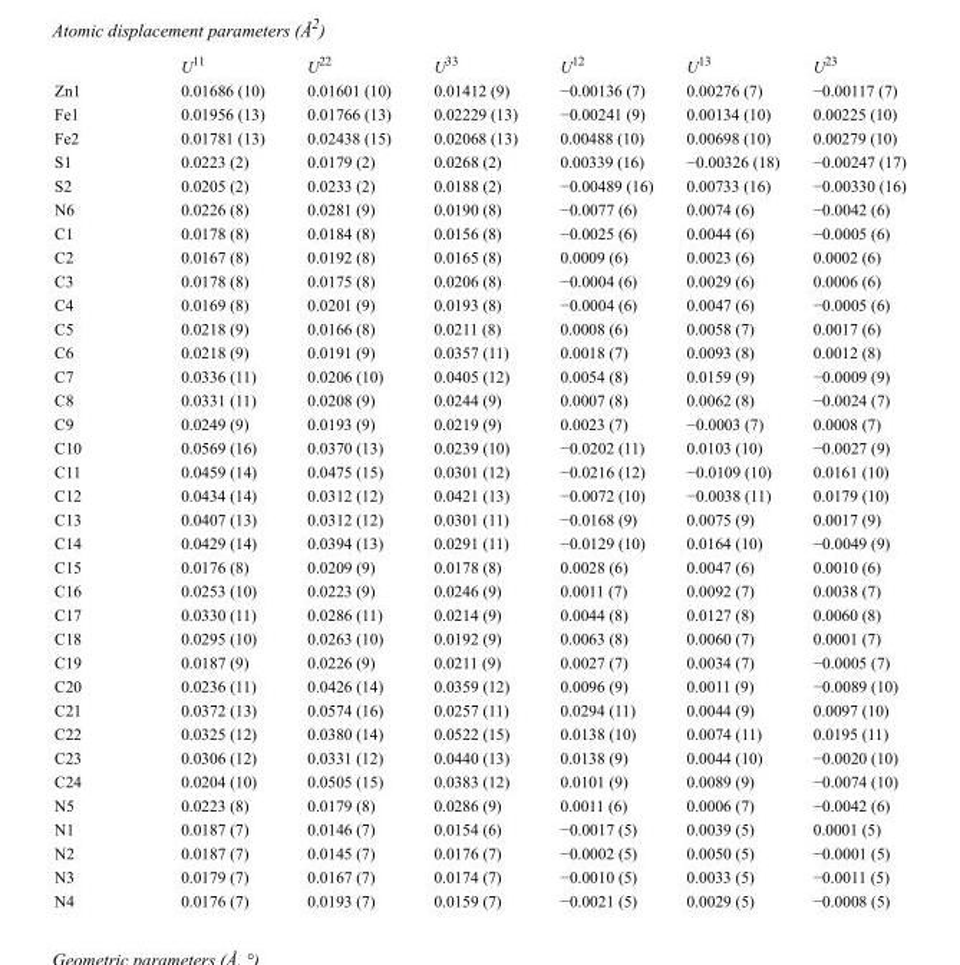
<table><thead><tr><td></td><td>U<sup>11</sup></td><td>U<sup>22</sup></td><td>U<sup>33</sup></td><td>U<sup>12</sup></td><td>U<sup>13</sup></td><td>U<sup>23</sup></td></tr></thead><tbody><tr><td>Zn1</td><td>0.01686 (10)</td><td>0.01601 (10)</td><td>0.01412 (9)</td><td>−0.00136 (7)</td><td>0.00276 (7)</td><td>−0.00117 (7)</td></tr><tr><td>Fe1</td><td>0.01956 (13)</td><td>0.01766 (13)</td><td>0.02229 (13)</td><td>−0.00241 (9)</td><td>0.00134 (10)</td><td>0.00225 (10)</td></tr><tr><td>Fe2</td><td>0.01781 (13)</td><td>0.02438 (15)</td><td>0.02068 (13)</td><td>0.00488 (10)</td><td>0.00698 (10)</td><td>0.00279 (10)</td></tr><tr><td>S1</td><td>0.0223 (2)</td><td>0.0179 (2)</td><td>0.0268 (2)</td><td>0.00339 (16)</td><td>−0.00326 (18)</td><td>−0.00247 (17)</td></tr><tr><td>S2</td><td>0.0205 (2)</td><td>0.0233 (2)</td><td>0.0188 (2)</td><td>−0.00489 (16)</td><td>0.00733 (16)</td><td>−0.00330 (16)</td></tr><tr><td>N6</td><td>0.0226 (8)</td><td>0.0281 (9)</td><td>0.0190 (8)</td><td>−0.0077 (6)</td><td>0.0074 (6)</td><td>−0.0042 (6)</td></tr><tr><td>C1</td><td>0.0178 (8)</td><td>0.0184 (8)</td><td>0.0156 (8)</td><td>−0.0025 (6)</td><td>0.0044 (6)</td><td>−0.0005 (6)</td></tr><tr><td>C2</td><td>0.0167 (8)</td><td>0.0192 (8)</td><td>0.0165 (8)</td><td>0.0009 (6)</td><td>0.0023 (6)</td><td>0.0002 (6)</td></tr><tr><td>C3</td><td>0.0178 (8)</td><td>0.0175 (8)</td><td>0.0206 (8)</td><td>−0.0004 (6)</td><td>0.0029 (6)</td><td>0.0006 (6)</td></tr><tr><td>C4</td><td>0.0169 (8)</td><td>0.0201 (9)</td><td>0.0193 (8)</td><td>−0.0004 (6)</td><td>0.0047 (6)</td><td>−0.0005 (6)</td></tr><tr><td>C5</td><td>0.0218 (9)</td><td>0.0166 (8)</td><td>0.0211 (8)</td><td>0.0008 (6)</td><td>0.0058 (7)</td><td>0.0017 (6)</td></tr><tr><td>C6</td><td>0.0218 (9)</td><td>0.0191 (9)</td><td>0.0357 (11)</td><td>0.0018 (7)</td><td>0.0093 (8)</td><td>0.0012 (8)</td></tr><tr><td>C7</td><td>0.0336 (11)</td><td>0.0206 (10)</td><td>0.0405 (12)</td><td>0.0054 (8)</td><td>0.0159 (9)</td><td>−0.0009 (9)</td></tr><tr><td>C8</td><td>0.0331 (11)</td><td>0.0208 (9)</td><td>0.0244 (9)</td><td>0.0007 (8)</td><td>0.0062 (8)</td><td>−0.0024 (7)</td></tr><tr><td>C9</td><td>0.0249 (9)</td><td>0.0193 (9)</td><td>0.0219 (9)</td><td>0.0023 (7)</td><td>−0.0003 (7)</td><td>0.0008 (7)</td></tr><tr><td>C10</td><td>0.0569 (16)</td><td>0.0370 (13)</td><td>0.0239 (10)</td><td>−0.0202 (11)</td><td>0.0103 (10)</td><td>−0.0027 (9)</td></tr><tr><td>C11</td><td>0.0459 (14)</td><td>0.0475 (15)</td><td>0.0301 (12)</td><td>−0.0216 (12)</td><td>−0.0109 (10)</td><td>0.0161 (10)</td></tr><tr><td>C12</td><td>0.0434 (14)</td><td>0.0312 (12)</td><td>0.0421 (13)</td><td>−0.0072 (10)</td><td>−0.0038 (11)</td><td>0.0179 (10)</td></tr><tr><td>C13</td><td>0.0407 (13)</td><td>0.0312 (12)</td><td>0.0301 (11)</td><td>−0.0168 (9)</td><td>0.0075 (9)</td><td>0.0017 (9)</td></tr><tr><td>C14</td><td>0.0429 (14)</td><td>0.0394 (13)</td><td>0.0291 (11)</td><td>−0.0129 (10)</td><td>0.0164 (10)</td><td>−0.0049 (9)</td></tr><tr><td>C15</td><td>0.0176 (8)</td><td>0.0209 (9)</td><td>0.0178 (8)</td><td>0.0028 (6)</td><td>0.0047 (6)</td><td>0.0010 (6)</td></tr><tr><td>C16</td><td>0.0253 (10)</td><td>0.0223 (9)</td><td>0.0246 (9)</td><td>0.0011 (7)</td><td>0.0092 (7)</td><td>0.0038 (7)</td></tr><tr><td>C17</td><td>0.0330 (11)</td><td>0.0286 (11)</td><td>0.0214 (9)</td><td>0.0044 (8)</td><td>0.0127 (8)</td><td>0.0060 (8)</td></tr><tr><td>C18</td><td>0.0295 (10)</td><td>0.0263 (10)</td><td>0.0192 (9)</td><td>0.0063 (8)</td><td>0.0060 (7)</td><td>0.0001 (7)</td></tr><tr><td>C19</td><td>0.0187 (9)</td><td>0.0226 (9)</td><td>0.0211 (9)</td><td>0.0027 (7)</td><td>0.0034 (7)</td><td>−0.0005 (7)</td></tr><tr><td>C20</td><td>0.0236 (11)</td><td>0.0426 (14)</td><td>0.0359 (12)</td><td>0.0096 (9)</td><td>0.0011 (9)</td><td>−0.0089 (10)</td></tr><tr><td>C21</td><td>0.0372 (13)</td><td>0.0574 (16)</td><td>0.0257 (11)</td><td>0.0294 (11)</td><td>0.0044 (9)</td><td>0.0097 (10)</td></tr><tr><td>C22</td><td>0.0325 (12)</td><td>0.0380 (14)</td><td>0.0522 (15)</td><td>0.0138 (10)</td><td>0.0074 (11)</td><td>0.0195 (11)</td></tr><tr><td>C23</td><td>0.0306 (12)</td><td>0.0331 (12)</td><td>0.0440 (13)</td><td>0.0138 (9)</td><td>0.0044 (10)</td><td>−0.0020 (10)</td></tr><tr><td>C24</td><td>0.0204 (10)</td><td>0.0505 (15)</td><td>0.0383 (12)</td><td>0.0101 (9)</td><td>0.0089 (9)</td><td>−0.0074 (10)</td></tr><tr><td>N5</td><td>0.0223 (8)</td><td>0.0179 (8)</td><td>0.0286 (9)</td><td>0.0011 (6)</td><td>0.0006 (7)</td><td>−0.0042 (6)</td></tr><tr><td>N1</td><td>0.0187 (7)</td><td>0.0146 (7)</td><td>0.0154 (6)</td><td>−0.0017 (5)</td><td>0.0039 (5)</td><td>0.0001 (5)</td></tr><tr><td>N2</td><td>0.0187 (7)</td><td>0.0145 (7)</td><td>0.0176 (7)</td><td>−0.0002 (5)</td><td>0.0050 (5)</td><td>−0.0001 (5)</td></tr><tr><td>N3</td><td>0.0179 (7)</td><td>0.0167 (7)</td><td>0.0174 (7)</td><td>−0.0010 (5)</td><td>0.0033 (5)</td><td>−0.0011 (5)</td></tr><tr><td>N4</td><td>0.0176 (7)</td><td>0.0193 (7)</td><td>0.0159 (7)</td><td>−0.0021 (5)</td><td>0.0029 (5)</td><td>−0.0008 (5)</td></tr></tbody></table>